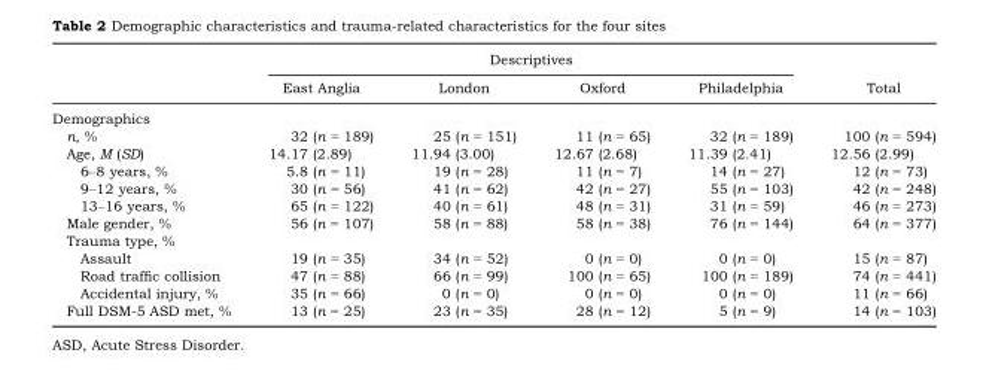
<table><thead><tr><td rowspan="2"></td><td colspan="4">Descriptives</td><td rowspan="2">Total</td></tr><tr><td>East Anglia</td><td>London</td><td>Oxford</td><td>Philadelphia</td></tr></thead><tbody><tr><td colspan="6">Demographics</td></tr><tr><td>n, %</td><td>32 (n = 189)</td><td>25 (n = 151)</td><td>11 (n = 65)</td><td>32 (n = 189)</td><td>100 (n = 594)</td></tr><tr><td>Age, M (SD)</td><td>14.17 (2.89)</td><td>11.94 (3.00)</td><td>12.67 (2.68)</td><td>11.39 (2.41)</td><td>12.56 (2.99)</td></tr><tr><td>6–8 years, %</td><td>5.8 (n = 11)</td><td>19 (n = 28)</td><td>11 (n = 7)</td><td>14 (n = 27)</td><td>12 (n = 73)</td></tr><tr><td>9–12 years, %</td><td>30 (n = 56)</td><td>41 (n = 62)</td><td>42 (n = 27)</td><td>55 (n = 103)</td><td>42 (n = 248)</td></tr><tr><td>13–16 years, %</td><td>65 (n = 122)</td><td>40 (n = 61)</td><td>48 (n = 31)</td><td>31 (n = 59)</td><td>46 (n = 273)</td></tr><tr><td>Male gender, %</td><td>56 (n = 107)</td><td>58 (n = 88)</td><td>58 (n = 38)</td><td>76 (n = 144)</td><td>64 (n = 377)</td></tr><tr><td colspan="6">Trauma type, %</td></tr><tr><td>Assault</td><td>19 (n = 35)</td><td>34 (n = 52)</td><td>0 (n = 0)</td><td>0 (n = 0)</td><td>15 (n = 87)</td></tr><tr><td>Road traffic collision</td><td>47 (n = 88)</td><td>66 (n = 99)</td><td>100 (n = 65)</td><td>100 (n = 189)</td><td>74 (n = 441)</td></tr><tr><td>Accidental injury, %</td><td>35 (n = 66)</td><td>0 (n = 0)</td><td>0 (n = 0)</td><td>0 (n = 0)</td><td>11 (n = 66)</td></tr><tr><td>Full DSM-5 ASD met, %</td><td>13 (n = 25)</td><td>23 (n = 35)</td><td>28 (n = 12)</td><td>5 (n = 9)</td><td>14 (n = 103)</td></tr></tbody></table>